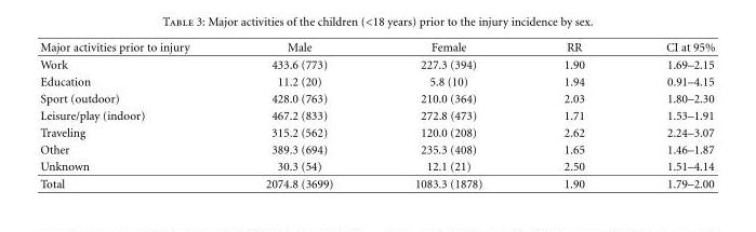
<table><thead><tr><td>Major activities prior to injury</td><td>Male</td><td>Female</td><td>RR</td><td>CI at 95%</td></tr></thead><tbody><tr><td>Work</td><td>433.6 (773)</td><td>227.3 (394)</td><td>1.90</td><td>1.69–2.15</td></tr><tr><td>Education</td><td>11.2 (20)</td><td>5.8 (10)</td><td>1.94</td><td>0.91–4.15</td></tr><tr><td>Sport (outdoor)</td><td>428.0 (763)</td><td>210.0 (364)</td><td>2.03</td><td>1.80–2.30</td></tr><tr><td>Leisure/play (indoor)</td><td>467.2 (833)</td><td>272.8 (473)</td><td>1.71</td><td>1.53–1.91</td></tr><tr><td>Traveling</td><td>315.2 (562)</td><td>120.0 (208)</td><td>2.62</td><td>2.24–3.07</td></tr><tr><td>Other</td><td>389.3 (694)</td><td>235.3 (408)</td><td>1.65</td><td>1.46–1.87</td></tr><tr><td>Unknown</td><td>30.3 (54)</td><td>12.1 (21)</td><td>2.50</td><td>1.51–4.14</td></tr><tr><td>Total</td><td>2074.8 (3699)</td><td>1083.3 (1878)</td><td>1.90</td><td>1.79–2.00</td></tr></tbody></table>